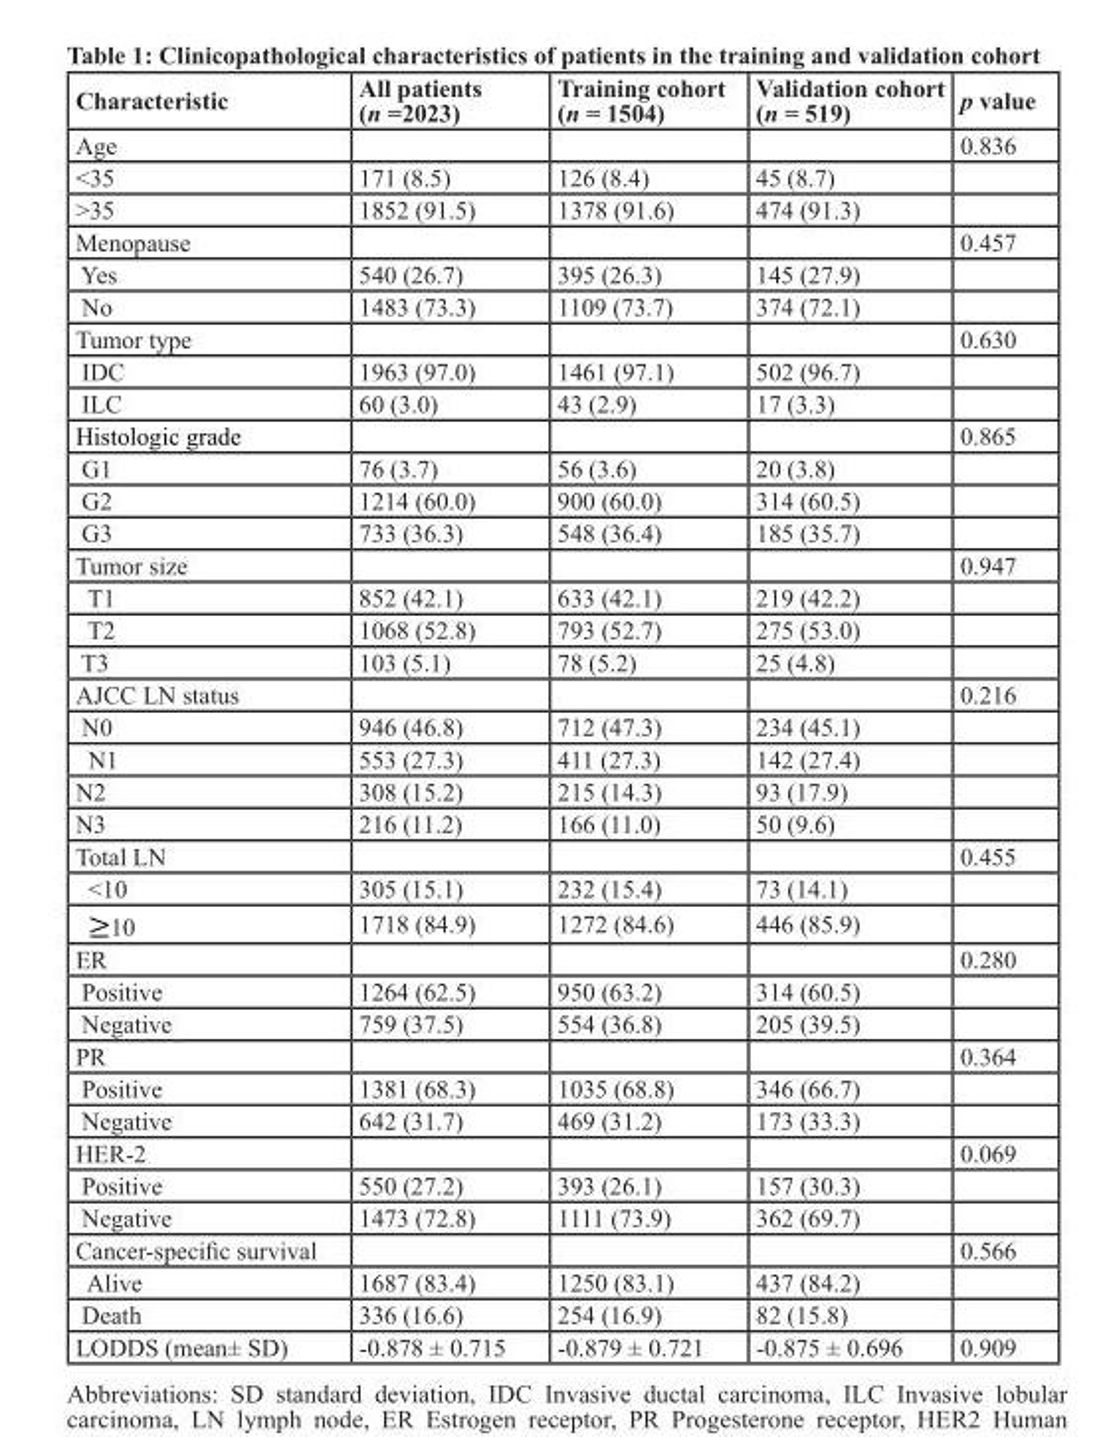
<table><thead><tr><td>Characteristic</td><td>All patients (n =2023)</td><td>Training cohort (n = 1504)</td><td>Validation cohort (n = 519)</td><td>p value</td></tr></thead><tbody><tr><td>Age</td><td></td><td></td><td></td><td>0.836</td></tr><tr><td>&lt;35</td><td>171 (8.5)</td><td>126 (8.4)</td><td>45 (8.7)</td><td></td></tr><tr><td>&gt;35</td><td>1852 (91.5)</td><td>1378 (91.6)</td><td>474 (91.3)</td><td></td></tr><tr><td>Menopause</td><td></td><td></td><td></td><td>0.457</td></tr><tr><td>Yes</td><td>540 (26.7)</td><td>395 (26.3)</td><td>145 (27.9)</td><td></td></tr><tr><td>No</td><td>1483 (73.3)</td><td>1109 (73.7)</td><td>374 (72.1)</td><td></td></tr><tr><td>Tumor type</td><td></td><td></td><td></td><td>0.630</td></tr><tr><td>IDC</td><td>1963 (97.0)</td><td>1461 (97.1)</td><td>502 (96.7)</td><td></td></tr><tr><td>ILC</td><td>60 (3.0)</td><td>43 (2.9)</td><td>17 (3.3)</td><td></td></tr><tr><td>Histologic grade</td><td></td><td></td><td></td><td>0.865</td></tr><tr><td>G1</td><td>76 (3.7)</td><td>56 (3.6)</td><td>20 (3.8)</td><td></td></tr><tr><td>G2</td><td>1214 (60.0)</td><td>900 (60.0)</td><td>314 (60.5)</td><td></td></tr><tr><td>G3</td><td>733 (36.3)</td><td>548 (36.4)</td><td>185 (35.7)</td><td></td></tr><tr><td>Tumor size</td><td></td><td></td><td></td><td>0.947</td></tr><tr><td>T1</td><td>852 (42.1)</td><td>633 (42.1)</td><td>219 (42.2)</td><td></td></tr><tr><td>T2</td><td>1068 (52.8)</td><td>793 (52.7)</td><td>275 (53.0)</td><td></td></tr><tr><td>T3</td><td>103 (5.1)</td><td>78 (5.2)</td><td>25 (4.8)</td><td></td></tr><tr><td>AJCC LN status</td><td></td><td></td><td></td><td>0.216</td></tr><tr><td>N0</td><td>946 (46.8)</td><td>712 (47.3)</td><td>234 (45.1)</td><td></td></tr><tr><td>N1</td><td>553 (27.3)</td><td>411 (27.3)</td><td>142 (27.4)</td><td></td></tr><tr><td>N2</td><td>308 (15.2)</td><td>215 (14.3)</td><td>93 (17.9)</td><td></td></tr><tr><td>N3</td><td>216 (11.2)</td><td>166 (11.0)</td><td>50 (9.6)</td><td></td></tr><tr><td>Total LN</td><td></td><td></td><td></td><td>0.455</td></tr><tr><td>&lt;10</td><td>305 (15.1)</td><td>232 (15.4)</td><td>73 (14.1)</td><td></td></tr><tr><td>≥10</td><td>1718 (84.9)</td><td>1272 (84.6)</td><td>446 (85.9)</td><td></td></tr><tr><td>ER</td><td></td><td></td><td></td><td>0.280</td></tr><tr><td>Positive</td><td>1264 (62.5)</td><td>950 (63.2)</td><td>314 (60.5)</td><td></td></tr><tr><td>Negative</td><td>759 (37.5)</td><td>554 (36.8)</td><td>205 (39.5)</td><td></td></tr><tr><td>PR</td><td></td><td></td><td></td><td>0.364</td></tr><tr><td>Positive</td><td>1381 (68.3)</td><td>1035 (68.8)</td><td>346 (66.7)</td><td></td></tr><tr><td>Negative</td><td>642 (31.7)</td><td>469 (31.2)</td><td>173 (33.3)</td><td></td></tr><tr><td>HER-2</td><td></td><td></td><td></td><td>0.069</td></tr><tr><td>Positive</td><td>550 (27.2)</td><td>393 (26.1)</td><td>157 (30.3)</td><td></td></tr><tr><td>Negative</td><td>1473 (72.8)</td><td>1111 (73.9)</td><td>362 (69.7)</td><td></td></tr><tr><td>Cancer-specific survival</td><td></td><td></td><td></td><td>0.566</td></tr><tr><td>Alive</td><td>1687 (83.4)</td><td>1250 (83.1)</td><td>437 (84.2)</td><td></td></tr><tr><td>Death</td><td>336 (16.6)</td><td>254 (16.9)</td><td>82 (15.8)</td><td></td></tr><tr><td>LODDS (mean± SD)</td><td>-0.878 ± 0.715</td><td>-0.879 ± 0.721</td><td>-0.875 ± 0.696</td><td>0.909</td></tr></tbody></table>